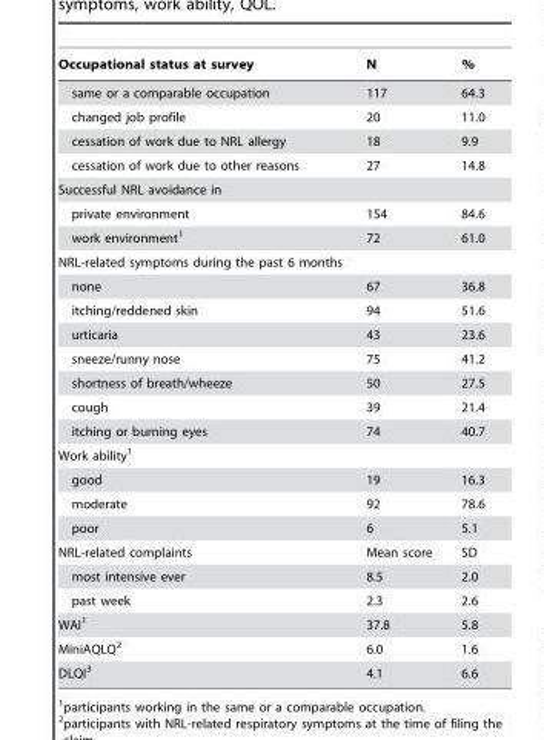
<table><thead><tr><td>Occupational status at survey</td><td>N</td><td>%</td></tr></thead><tbody><tr><td>same or a comparable occupation</td><td>117</td><td>64.3</td></tr><tr><td>changed job profile</td><td>20</td><td>11.0</td></tr><tr><td>cessation of work due to NRL allergy</td><td>18</td><td>9.9</td></tr><tr><td>cessation of work due to other reasons</td><td>27</td><td>14.8</td></tr><tr><td colspan="3">Successful NRL avoidance in</td></tr><tr><td>private environment</td><td>154</td><td>84.6</td></tr><tr><td>work environment<sup>1</sup></td><td>72</td><td>61.0</td></tr><tr><td colspan="3">NRL-related symptoms during the past 6 months</td></tr><tr><td>none</td><td>67</td><td>36.8</td></tr><tr><td>itching/reddened skin</td><td>94</td><td>51.6</td></tr><tr><td>urticaria</td><td>43</td><td>23.6</td></tr><tr><td>sneeze/runny nose</td><td>75</td><td>41.2</td></tr><tr><td>shortness of breath/wheeze</td><td>50</td><td>27.5</td></tr><tr><td>cough</td><td>39</td><td>21.4</td></tr><tr><td>itching or burning eyes</td><td>74</td><td>40.7</td></tr><tr><td colspan="3">Work ability<sup>1</sup></td></tr><tr><td>good</td><td>19</td><td>16.3</td></tr><tr><td>moderate</td><td>92</td><td>78.6</td></tr><tr><td>poor</td><td>6</td><td>5.1</td></tr><tr><td>NRL-related complaints</td><td>Mean score</td><td>SD</td></tr><tr><td>most intensive ever</td><td>8.5</td><td>2.0</td></tr><tr><td>past week</td><td>2.3</td><td>2.6</td></tr><tr><td>WAI<sup>1</sup></td><td>37.8</td><td>5.8</td></tr><tr><td>MiniAQLQ<sup>2</sup></td><td>6.0</td><td>1.6</td></tr><tr><td>DLQI<sup>3</sup></td><td>4.1</td><td>6.6</td></tr></tbody></table>